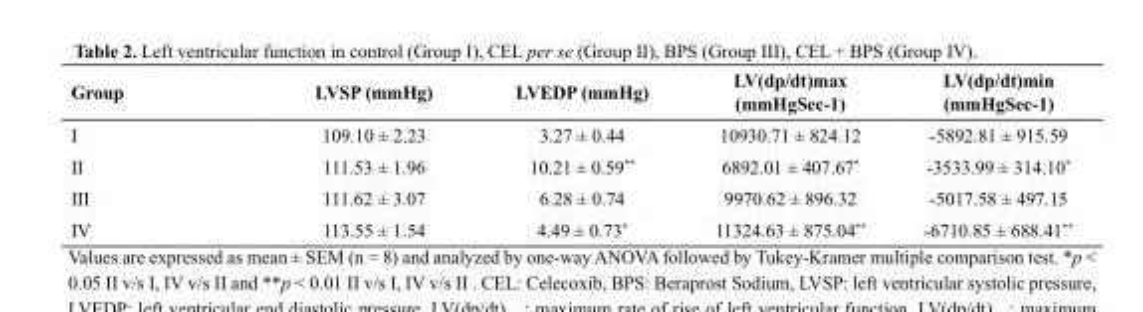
<table><thead><tr><td>Group</td><td>LVSP (mmHg)</td><td>LVEDP (mmHg)</td><td>LV(dp/dt)<sub>max</sub> (mmHgSec<sup>-1</sup>)</td><td>LV(dp/dt)<sub>min</sub> (mmHgSec<sup>-1</sup>)</td></tr></thead><tbody><tr><td>I</td><td>109.10 ± 2.23</td><td>3.27 ± 0.44</td><td>10930.71 ± 824.12</td><td>-5892.81 ± 915.59</td></tr><tr><td>II</td><td>111.53 ± 1.96</td><td>10.21 ± 0.59**</td><td>6892.01 ± 407.67*</td><td>-3533.99 ± 314.10*</td></tr><tr><td>III</td><td>111.62 ± 3.07</td><td>6.28 ± 0.74</td><td>9970.62 ± 896.32</td><td>-5017.58 ± 497.15</td></tr><tr><td>IV</td><td>113.55 ± 1.54</td><td>4.49 ± 0.73*</td><td>11324.63 ± 875.04**</td><td>-6710.85 ± 688.41**</td></tr></tbody></table>